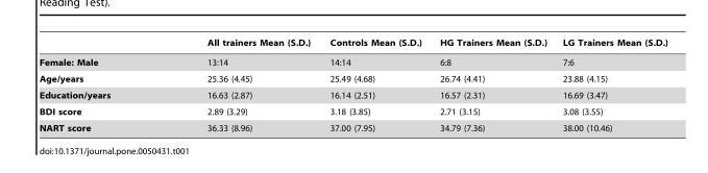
<table><thead><tr><td></td><td>All trainers Mean (S.D.)</td><td>Controls Mean (S.D.)</td><td>HG Trainers Mean (S.D.)</td><td>LG Trainers Mean (S.D.)</td></tr></thead><tbody><tr><td>Female: Male</td><td>13:14</td><td>14:14</td><td>6:8</td><td>7:6</td></tr><tr><td>Age/years</td><td>25.36 (4.45)</td><td>25.49 (4.68)</td><td>26.74 (4.41)</td><td>23.88 (4.15)</td></tr><tr><td>Education/years</td><td>16.63 (2.87)</td><td>16.14 (2.51)</td><td>16.57 (2.31)</td><td>16.69 (3.47)</td></tr><tr><td>BDI score</td><td>2.89 (3.29)</td><td>3.18 (3.85)</td><td>2.71 (3.15)</td><td>3.08 (3.55)</td></tr><tr><td>NART score</td><td>36.33 (8.96)</td><td>37.00 (7.95)</td><td>34.79 (7.36)</td><td>38.00 (10.46)</td></tr></tbody></table>